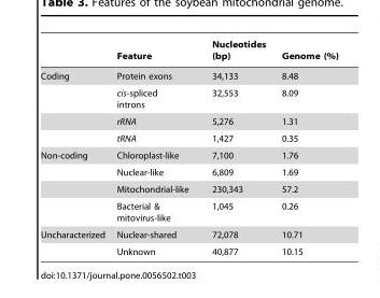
<table><thead><tr><td></td><td>Feature</td><td>Nucleotides (bp)</td><td>Genome (%)</td></tr></thead><tbody><tr><td rowspan="4">Coding</td><td>Protein exons</td><td>34,133</td><td>8.48</td></tr><tr><td>cis-spliced introns</td><td>32,553</td><td>8.09</td></tr><tr><td>rRNA</td><td>5,276</td><td>1.31</td></tr><tr><td>tRNA</td><td>1,427</td><td>0.35</td></tr><tr><td rowspan="4">Non-coding</td><td>Chloroplast-like</td><td>7,100</td><td>1.76</td></tr><tr><td>Nuclear-like</td><td>6,809</td><td>1.69</td></tr><tr><td>Mitochondrial-like</td><td>230,343</td><td>57.2</td></tr><tr><td>Bacterial &amp; mitovirus-like</td><td>1,045</td><td>0.26</td></tr><tr><td rowspan="2">Uncharacterized</td><td>Nuclear-shared</td><td>72,078</td><td>10.71</td></tr><tr><td>Unknown</td><td>40,877</td><td>10.15</td></tr></tbody></table>